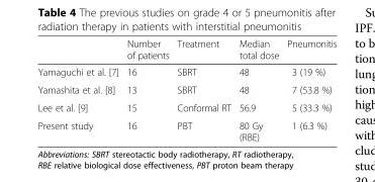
<table><thead><tr><td></td><td>Number of patients</td><td>Treatment</td><td>Median total dose</td><td>Pneumonitis</td></tr></thead><tbody><tr><td>Yamaguchi et al. [7]</td><td>16</td><td>SBRT</td><td>48</td><td>3 (19 %)</td></tr><tr><td>Yamashita et al. [8]</td><td>13</td><td>SBRT</td><td>48</td><td>7 (53.8 %)</td></tr><tr><td>Lee et al. [9]</td><td>15</td><td>Conformal RT</td><td>56.9</td><td>5 (33.3 %)</td></tr><tr><td>Present study</td><td>16</td><td>PBT</td><td>80 Gy (RBE)</td><td>1 (6.3 %)</td></tr></tbody></table>